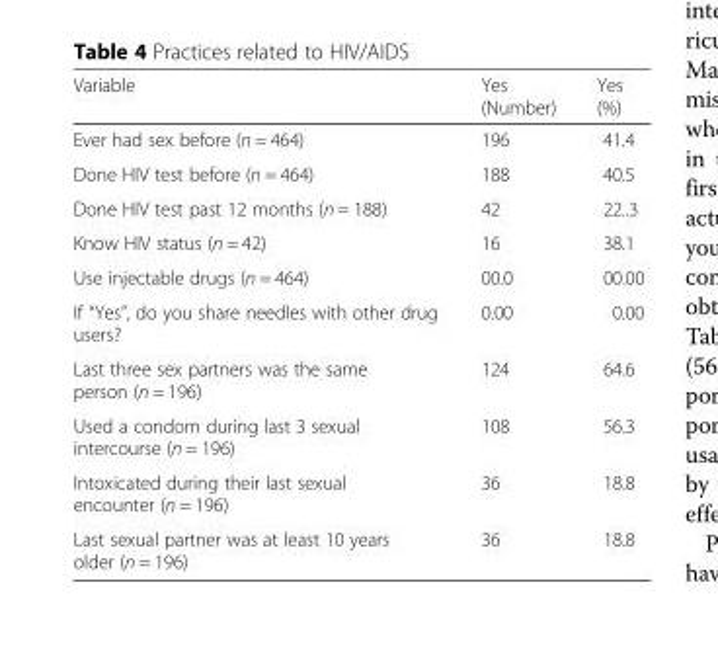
<table><thead><tr><td>Variable</td><td>Yes (Number)</td><td>Yes (%)</td></tr></thead><tbody><tr><td>Ever had sex before (n = 464)</td><td>196</td><td>41.4</td></tr><tr><td>Done HIV test before (n = 464)</td><td>188</td><td>40.5</td></tr><tr><td>Done HIV test past 12 months (n = 188)</td><td>42</td><td>22..3</td></tr><tr><td>Know HIV status (n = 42)</td><td>16</td><td>38.1</td></tr><tr><td>Use injectable drugs (n = 464)</td><td>00.0</td><td>00.00</td></tr><tr><td>If “Yes”, do you share needles with other drug users?</td><td>0.00</td><td>0.00</td></tr><tr><td>Last three sex partners was the same person (n = 196)</td><td>124</td><td>64.6</td></tr><tr><td>Used a condom during last 3 sexual intercourse (n = 196)</td><td>108</td><td>56.3</td></tr><tr><td>Intoxicated during their last sexual encounter (n = 196)</td><td>36</td><td>18.8</td></tr><tr><td>Last sexual partner was at least 10 years older (n = 196)</td><td>36</td><td>18.8</td></tr></tbody></table>